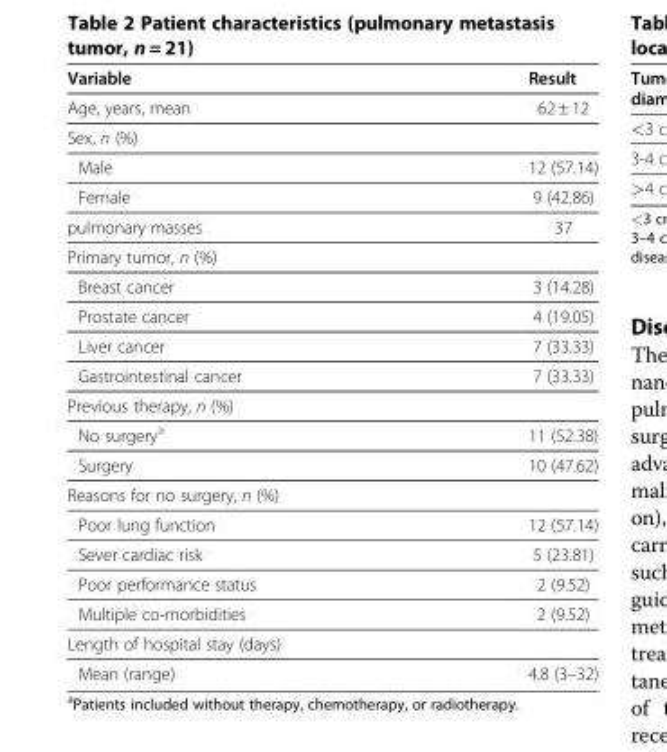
<table><thead><tr><td>Variable</td><td>Result</td></tr></thead><tbody><tr><td>Age, years, mean</td><td>62 ± 12</td></tr><tr><td colspan="2">Sex, n (%)</td></tr><tr><td>Male</td><td>12 (57.14)</td></tr><tr><td>Female</td><td>9 (42.86)</td></tr><tr><td>pulmonary masses</td><td>37</td></tr><tr><td colspan="2">Primary tumor, n (%)</td></tr><tr><td>Breast cancer</td><td>3 (14.28)</td></tr><tr><td>Prostate cancer</td><td>4 (19.05)</td></tr><tr><td>Liver cancer</td><td>7 (33.33)</td></tr><tr><td>Gastrointestinal cancer</td><td>7 (33.33)</td></tr><tr><td colspan="2">Previous therapy, n (%)</td></tr><tr><td>No surgery<sup>a</sup></td><td>11 (52.38)</td></tr><tr><td>Surgery</td><td>10 (47.62)</td></tr><tr><td colspan="2">Reasons for no surgery, n (%)</td></tr><tr><td>Poor lung function</td><td>12 (57.14)</td></tr><tr><td>Sever cardiac risk</td><td>5 (23.81)</td></tr><tr><td>Poor performance status</td><td>2 (9.52)</td></tr><tr><td>Multiple co-morbidities</td><td>2 (9.52)</td></tr><tr><td colspan="2">Length of hospital stay (days)</td></tr><tr><td>Mean (range)</td><td>4.8 (3–32)</td></tr></tbody></table>